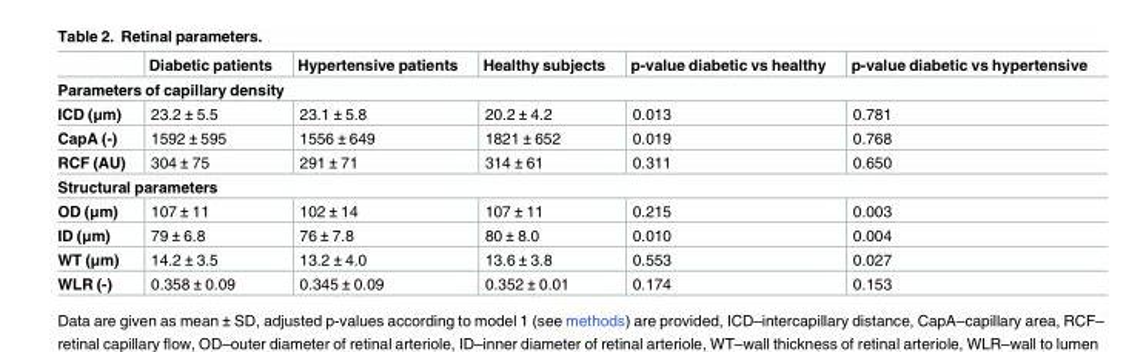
<table><thead><tr><td></td><td>Diabetic patients</td><td>Hypertensive patients</td><td>Healthy subjects</td><td>p-value diabetic vs healthy</td><td>p-value diabetic vs hypertensive</td></tr></thead><tbody><tr><td colspan="6">Parameters of capillary density</td></tr><tr><td>ICD (μm)</td><td>23.2 ± 5.5</td><td>23.1 ± 5.8</td><td>20.2 ± 4.2</td><td>0.013</td><td>0.781</td></tr><tr><td>CapA (-)</td><td>1592 ± 595</td><td>1556 ± 649</td><td>1821 ± 652</td><td>0.019</td><td>0.768</td></tr><tr><td>RCF (AU)</td><td>304 ± 75</td><td>291 ± 71</td><td>314 ± 61</td><td>0.311</td><td>0.650</td></tr><tr><td colspan="6">Structural parameters</td></tr><tr><td>OD (μm)</td><td>107 ± 11</td><td>102 ± 14</td><td>107 ± 11</td><td>0.215</td><td>0.003</td></tr><tr><td>ID (μm)</td><td>79 ± 6.8</td><td>76 ± 7.8</td><td>80 ± 8.0</td><td>0.010</td><td>0.004</td></tr><tr><td>WT (μm)</td><td>14.2 ± 3.5</td><td>13.2 ± 4.0</td><td>13.6 ± 3.8</td><td>0.553</td><td>0.027</td></tr><tr><td>WLR (-)</td><td>0.358 ± 0.09</td><td>0.345 ± 0.09</td><td>0.352 ± 0.01</td><td>0.174</td><td>0.153</td></tr></tbody></table>